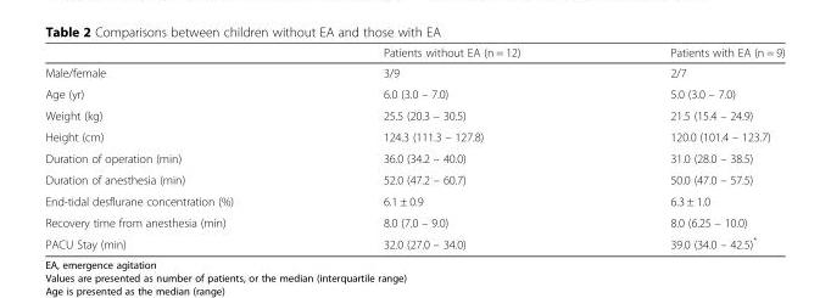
<table><thead><tr><td></td><td>Patients without EA (n = 12)</td><td>Patients with EA (n = 9)</td></tr></thead><tbody><tr><td>Male/female</td><td>3/9</td><td>2/7</td></tr><tr><td>Age (yr)</td><td>6.0 (3.0 – 7.0)</td><td>5.0 (3.0 – 7.0)</td></tr><tr><td>Weight (kg)</td><td>25.5 (20.3 – 30.5)</td><td>21.5 (15.4 – 24.9)</td></tr><tr><td>Height (cm)</td><td>124.3 (111.3 – 127.8)</td><td>120.0 (101.4 – 123.7)</td></tr><tr><td>Duration of operation (min)</td><td>36.0 (34.2 – 40.0)</td><td>31.0 (28.0 – 38.5)</td></tr><tr><td>Duration of anesthesia (min)</td><td>52.0 (47.2 – 60.7)</td><td>50.0 (47.0 – 57.5)</td></tr><tr><td>End-tidal desflurane concentration (%)</td><td>6.1 ± 0.9</td><td>6.3 ± 1.0</td></tr><tr><td>Recovery time from anesthesia (min)</td><td>8.0 (7.0 – 9.0)</td><td>8.0 (6.25 – 10.0)</td></tr><tr><td>PACU Stay (min)</td><td>32.0 (27.0 – 34.0)</td><td>39.0 (34.0 – 42.5)*</td></tr></tbody></table>